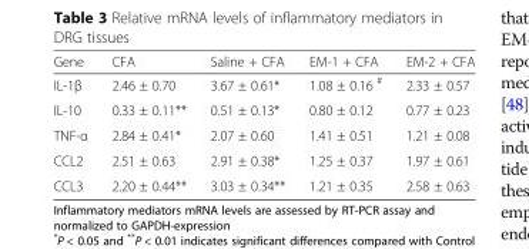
<table><thead><tr><td>Gene</td><td>CFA</td><td>Saline + CFA</td><td>EM-1 + CFA</td><td>EM-2 + CFA</td></tr></thead><tbody><tr><td>IL-1β</td><td>2.46 ± 0.70</td><td>3.67 ± 0.61*</td><td>1.08 ± 0.16 <sup>#</sup></td><td>2.33 ± 0.57</td></tr><tr><td>IL-10</td><td>0.33 ± 0.11**</td><td>0.51 ± 0.13*</td><td>0.80 ± 0.12</td><td>0.77 ± 0.23</td></tr><tr><td>TNF-α</td><td>2.84 ± 0.41*</td><td>2.07 ± 0.60</td><td>1.41 ± 0.51</td><td>1.21 ± 0.08</td></tr><tr><td>CCL2</td><td>2.51 ± 0.63</td><td>2.91 ± 0.38*</td><td>1.25 ± 0.37</td><td>1.97 ± 0.61</td></tr><tr><td>CCL3</td><td>2.20 ± 0.44**</td><td>3.03 ± 0.34**</td><td>1.21 ± 0.35</td><td>2.58 ± 0.63</td></tr></tbody></table>